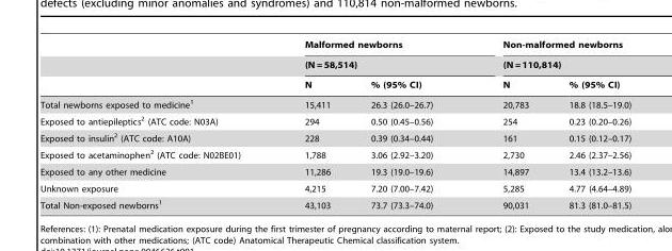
<table><thead><tr><td rowspan="3"></td><td rowspan="2" colspan="2">Malformed newborns (N = 58,514)</td><td rowspan="2" colspan="2">Non-malformed newborns (N = 110,814)</td></tr><tr></tr><tr><td>N</td><td>% (95% CI)</td><td>N</td><td>% (95% CI)</td></tr></thead><tbody><tr><td>Total newborns exposed to medicine<sup>1</sup></td><td>15,411</td><td>26.3 (26.0–26.7)</td><td>20,783</td><td>18.8 (18.5–19.0)</td></tr><tr><td>Exposed to antiepileptics<sup>2</sup> (ATC code: N03A)</td><td>294</td><td>0.50 (0.45–0.56)</td><td>254</td><td>0.23 (0.20–0.26)</td></tr><tr><td>Exposed to insulin<sup>2</sup> (ATC code: A10A)</td><td>228</td><td>0.39 (0.34–0.44)</td><td>161</td><td>0.15 (0.12–0.17)</td></tr><tr><td>Exposed to acetaminophen<sup>2</sup> (ATC code: N02BE01)</td><td>1,788</td><td>3.06 (2.92–3.20)</td><td>2,730</td><td>2.46 (2.37–2.56)</td></tr><tr><td>Exposed to any other medicine</td><td>11,286</td><td>19.3 (19.0–19.6)</td><td>14,897</td><td>13.4 (13.2–13.6)</td></tr><tr><td>Unknown exposure</td><td>4,215</td><td>7.20 (7.00–7.42)</td><td>5,285</td><td>4.77 (4.64–4.89)</td></tr><tr><td>Total Non-exposed newborns<sup>1</sup></td><td>43,103</td><td>73.7 (73.3–74.0)</td><td>90,031</td><td>81.3 (81.0–81.5)</td></tr></tbody></table>